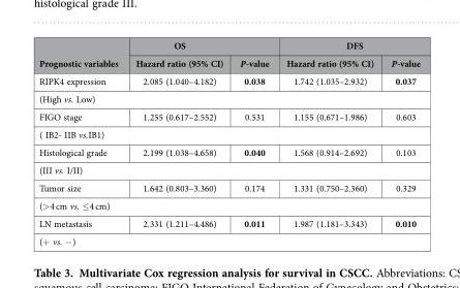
<table><thead><tr><td rowspan="2">Prognostic variables</td><td colspan="2">OS</td><td colspan="2">DFS</td></tr><tr><td>Hazard ratio (95% CI)</td><td>P-value</td><td>Hazard ratio (95% CI)</td><td>P-value</td></tr></thead><tbody><tr><td>RIPK4 expression</td><td>2.085 (1.040–4.182)</td><td>0.038</td><td>1.742 (1.035–2.932)</td><td>0.037</td></tr><tr><td colspan="5">(High vs. Low)</td></tr><tr><td>FIGO stage</td><td>1.255 (0.617–2.552)</td><td>0.531</td><td>1.155 (0.671–1.986)</td><td>0.603</td></tr><tr><td colspan="5">( IB2- IIB vs.IB1)</td></tr><tr><td>Histological grade</td><td>2.199 (1.038–4.658)</td><td>0.040</td><td>1.568 (0.914–2.692)</td><td>0.103</td></tr><tr><td colspan="5">(III vs. I/II)</td></tr><tr><td>Tumor size</td><td>1.642 (0.803–3.360)</td><td>0.174</td><td>1.331 (0.750–2.360)</td><td>0.329</td></tr><tr><td colspan="5">(&gt; 4 cm vs. ≤ 4 cm)</td></tr><tr><td>LN metastasis</td><td>2.331 (1.211–4.486)</td><td>0.011</td><td>1.987 (1.181–3.343)</td><td>0.010</td></tr><tr><td colspan="5">(+ vs. − )</td></tr></tbody></table>